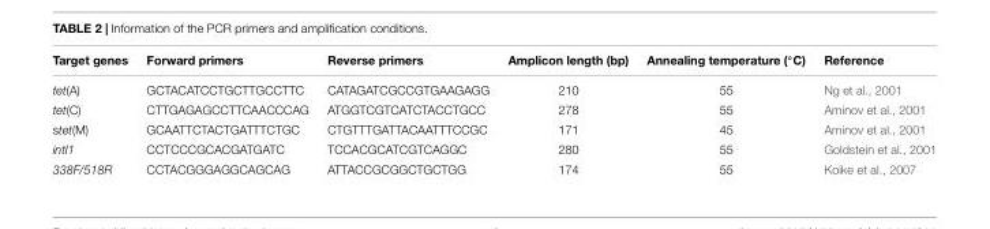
<table><thead><tr><td>Target genes</td><td>Forward primers</td><td>Reverse primers</td><td>Amplicon length (bp)</td><td>Annealing temperature (◦C)</td><td>Reference</td></tr></thead><tbody><tr><td>tet(A)</td><td>GCTACATCCTGCTTGCCTTC</td><td>CATAGATCGCCGTGAAGAGG</td><td>210</td><td>55</td><td>Ng et al., 2001</td></tr><tr><td>tet(C)</td><td>CTTGAGAGCCTTCAACCCAG</td><td>ATGGTCGTCATCTACCTGCC</td><td>278</td><td>55</td><td>Aminov et al., 2001</td></tr><tr><td>stet(M)</td><td>GCAATTCTACTGATTTCTGC</td><td>CTGTTTGATTACAATTTCCGC</td><td>171</td><td>45</td><td>Aminov et al., 2001</td></tr><tr><td>intI1</td><td>CCTCCCGCACGATGATC</td><td>TCCACGCATCGTCAGGC</td><td>280</td><td>55</td><td>Goldstein et al., 2001</td></tr><tr><td>338F/518R</td><td>CCTACGGGAGGCAGCAG</td><td>ATTACCGCGGCTGCTGG</td><td>174</td><td>55</td><td>Koike et al., 2007</td></tr></tbody></table>